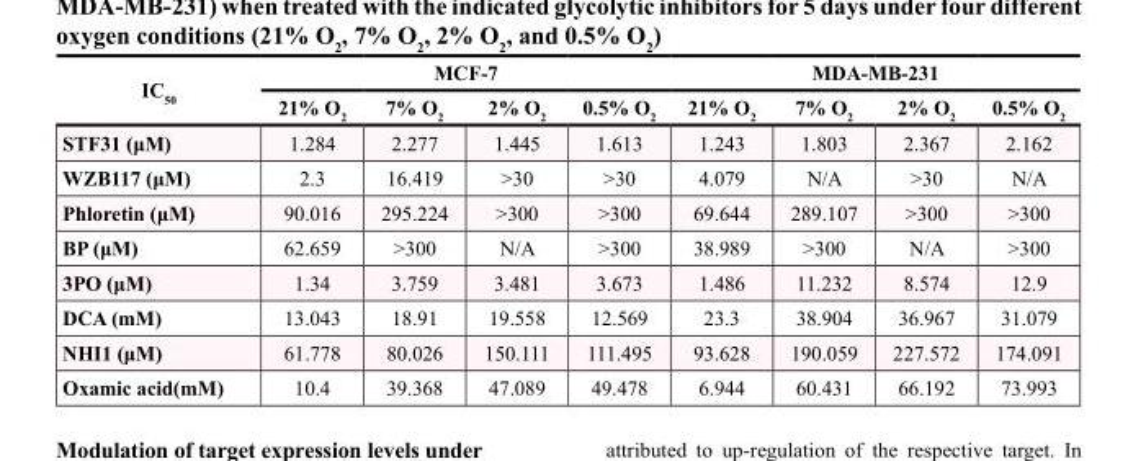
<table><thead><tr><td rowspan="2">IC<sub>50</sub></td><td colspan="4">MCF-7</td><td colspan="4">MDA-MB-231</td></tr><tr><td>21% O<sub>2</sub></td><td>7% O<sub>2</sub></td><td>2% O<sub>2</sub></td><td>0.5% O<sub>2</sub></td><td>21% O<sub>2</sub></td><td>7% O<sub>2</sub></td><td>2% O<sub>2</sub></td><td>0.5% O<sub>2</sub></td></tr></thead><tbody><tr><td>STF31 (μM)</td><td>1.284</td><td>2.277</td><td>1.445</td><td>1.613</td><td>1.243</td><td>1.803</td><td>2.367</td><td>2.162</td></tr><tr><td>WZB117 (μM)</td><td>2.3</td><td>16.419</td><td>&gt;30</td><td>&gt;30</td><td>4.079</td><td>N/A</td><td>&gt;30</td><td>N/A</td></tr><tr><td>Phloretin (μM)</td><td>90.016</td><td>295.224</td><td>&gt;300</td><td>&gt;300</td><td>69.644</td><td>289.107</td><td>&gt;300</td><td>&gt;300</td></tr><tr><td>BP (μM)</td><td>62.659</td><td>&gt;300</td><td>N/A</td><td>&gt;300</td><td>38.989</td><td>&gt;300</td><td>N/A</td><td>&gt;300</td></tr><tr><td>3PO (μM)</td><td>1.34</td><td>3.759</td><td>3.481</td><td>3.673</td><td>1.486</td><td>11.232</td><td>8.574</td><td>12.9</td></tr><tr><td>DCA (mM)</td><td>13.043</td><td>18.91</td><td>19.558</td><td>12.569</td><td>23.3</td><td>38.904</td><td>36.967</td><td>31.079</td></tr><tr><td>NHI1 (μM)</td><td>61.778</td><td>80.026</td><td>150.111</td><td>111.495</td><td>93.628</td><td>190.059</td><td>227.572</td><td>174.091</td></tr><tr><td>Oxamic acid(mM)</td><td>10.4</td><td>39.368</td><td>47.089</td><td>49.478</td><td>6.944</td><td>60.431</td><td>66.192</td><td>73.993</td></tr></tbody></table>